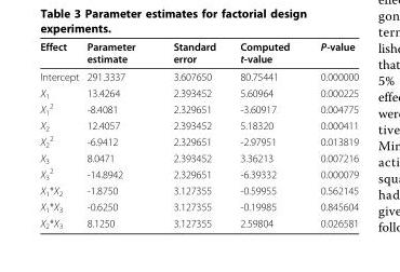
<table><thead><tr><td>Effect</td><td>Parameter estimate</td><td>Standard error</td><td>Computed t-value</td><td>P-value</td></tr></thead><tbody><tr><td>Intercept</td><td>291.3337</td><td>3.607650</td><td>80.75441</td><td>0.000000</td></tr><tr><td>X<sub>1</sub></td><td>13.4264</td><td>2.393452</td><td>5.60964</td><td>0.000225</td></tr><tr><td>X<sub>1</sub> <sup>2</sup></td><td>-8.4081</td><td>2.329651</td><td>-3.60917</td><td>0.004775</td></tr><tr><td>X<sub>2</sub></td><td>12.4057</td><td>2.393452</td><td>5.18320</td><td>0.000411</td></tr><tr><td>X<sub>2</sub> <sup>2</sup></td><td>-6.9412</td><td>2.329651</td><td>-2.97951</td><td>0.013819</td></tr><tr><td>X<sub>3</sub></td><td>8.0471</td><td>2.393452</td><td>3.36213</td><td>0.007216</td></tr><tr><td>X<sub>3</sub> <sup>2</sup></td><td>-14.8942</td><td>2.329651</td><td>-6.39332</td><td>0.000079</td></tr><tr><td>X<sub>1</sub>*X<sub>2</sub></td><td>-1.8750</td><td>3.127355</td><td>-0.59955</td><td>0.562145</td></tr><tr><td>X<sub>1</sub>*X<sub>3</sub></td><td>-0.6250</td><td>3.127355</td><td>-0.19985</td><td>0.845604</td></tr><tr><td>X<sub>2</sub>*X<sub>3</sub></td><td>8.1250</td><td>3.127355</td><td>2.59804</td><td>0.026581</td></tr></tbody></table>